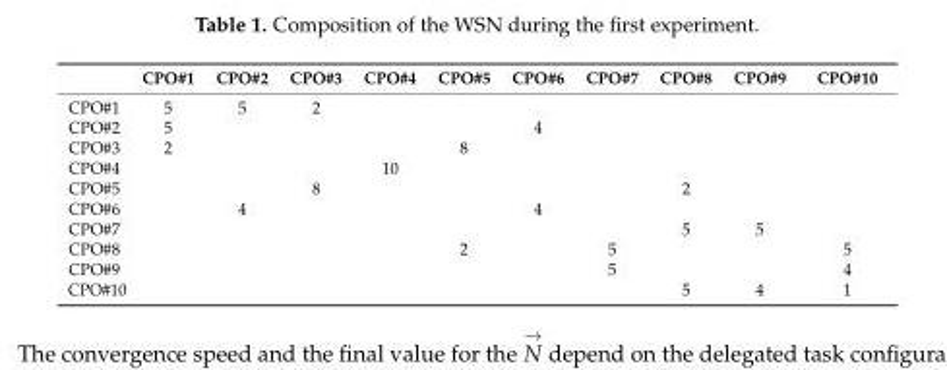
<table><thead><tr><td></td><td>CPO#1</td><td>CPO#2</td><td>CPO#3</td><td>CPO#4</td><td>CPO#5</td><td>CPO#6</td><td>CPO#7</td><td>CPO#8</td><td>CPO#9</td><td>CPO#10</td></tr></thead><tbody><tr><td>CPO#1</td><td>5</td><td>5</td><td>2</td><td></td><td></td><td></td><td></td><td></td><td></td><td></td></tr><tr><td>CPO#2</td><td>5</td><td></td><td></td><td></td><td></td><td>4</td><td></td><td></td><td></td><td></td></tr><tr><td>CPO#3</td><td>2</td><td></td><td></td><td></td><td>8</td><td></td><td></td><td></td><td></td><td></td></tr><tr><td>CPO#4</td><td></td><td></td><td></td><td>10</td><td></td><td></td><td></td><td></td><td></td><td></td></tr><tr><td>CPO#5</td><td></td><td></td><td>8</td><td></td><td></td><td></td><td></td><td>2</td><td></td><td></td></tr><tr><td>CPO#6</td><td></td><td>4</td><td></td><td></td><td></td><td>4</td><td></td><td></td><td></td><td></td></tr><tr><td>CPO#7</td><td></td><td></td><td></td><td></td><td></td><td></td><td></td><td>5</td><td>5</td><td></td></tr><tr><td>CPO#8</td><td></td><td></td><td></td><td></td><td>2</td><td></td><td>5</td><td></td><td></td><td>5</td></tr><tr><td>CPO#9</td><td></td><td></td><td></td><td></td><td></td><td></td><td>5</td><td></td><td></td><td>4</td></tr><tr><td>CPO#10</td><td></td><td></td><td></td><td></td><td></td><td></td><td></td><td>5</td><td>4</td><td>1</td></tr></tbody></table>